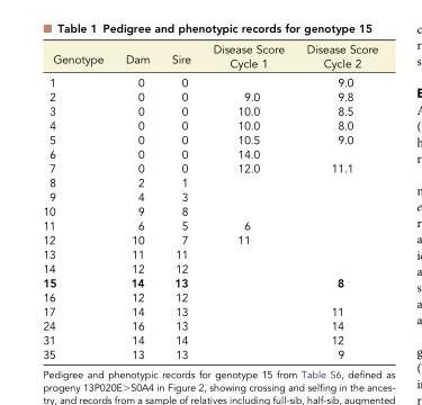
<table><thead><tr><td>Genotype</td><td>Dam</td><td>Sire</td><td>Disease Score Cycle 1</td><td>Disease Score Cycle 2</td></tr></thead><tbody><tr><td>1</td><td>0</td><td>0</td><td></td><td>9.0</td></tr><tr><td>2</td><td>0</td><td>0</td><td>9.0</td><td>9.8</td></tr><tr><td>3</td><td>0</td><td>0</td><td>10.0</td><td>8.5</td></tr><tr><td>4</td><td>0</td><td>0</td><td>10.0</td><td>8.0</td></tr><tr><td>5</td><td>0</td><td>0</td><td>10.5</td><td>9.0</td></tr><tr><td>6</td><td>0</td><td>0</td><td>14.0</td><td></td></tr><tr><td>7</td><td>0</td><td>0</td><td>12.0</td><td>11.1</td></tr><tr><td>8</td><td>2</td><td>1</td><td></td><td></td></tr><tr><td>9</td><td>4</td><td>3</td><td></td><td></td></tr><tr><td>10</td><td>9</td><td>8</td><td></td><td></td></tr><tr><td>11</td><td>6</td><td>5</td><td>6</td><td></td></tr><tr><td>12</td><td>10</td><td>7</td><td>11</td><td></td></tr><tr><td>13</td><td>11</td><td>11</td><td></td><td></td></tr><tr><td>14</td><td>12</td><td>12</td><td></td><td></td></tr><tr><td>15</td><td>14</td><td>13</td><td></td><td>8</td></tr><tr><td>16</td><td>12</td><td>12</td><td></td><td></td></tr><tr><td>17</td><td>14</td><td>13</td><td></td><td>11</td></tr><tr><td>24</td><td>16</td><td>13</td><td></td><td>14</td></tr><tr><td>31</td><td>14</td><td>14</td><td></td><td>12</td></tr><tr><td>35</td><td>13</td><td>13</td><td></td><td>9</td></tr></tbody></table>